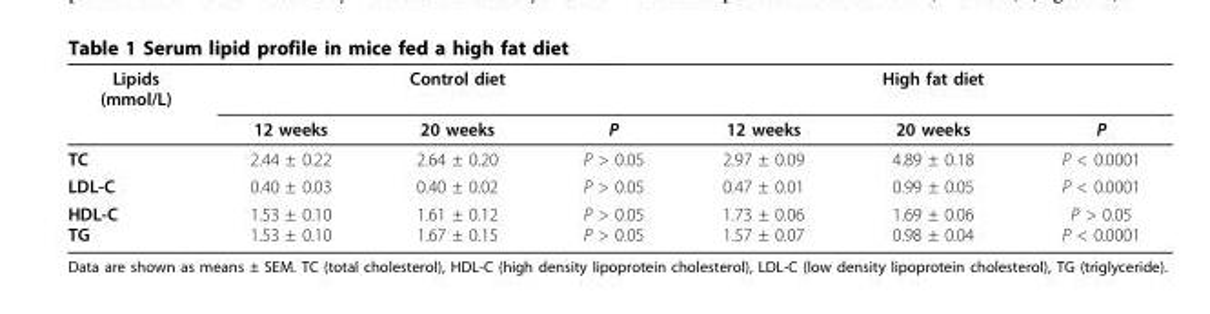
<table><thead><tr><td rowspan="2">Lipids (mmol/L)</td><td rowspan="2">12 weeks</td><td rowspan="2">Control diet 20 weeks</td><td rowspan="2">P</td><td rowspan="2">12 weeks</td><td rowspan="2">High fat diet 20 weeks</td><td rowspan="2">P</td></tr><tr></tr></thead><tbody><tr><td>TC</td><td>2.44 ± 0.22</td><td>2.64 ± 0.20</td><td>P &gt; 0.05</td><td>2.97 ± 0.09</td><td>4.89 ± 0.18</td><td>P &lt; 0.0001</td></tr><tr><td>LDL-C</td><td>0.40 ± 0.03</td><td>0.40 ± 0.02</td><td>P &gt; 0.05</td><td>0.47 ± 0.01</td><td>0.99 ± 0.05</td><td>P &lt; 0.0001</td></tr><tr><td>HDL-C TG</td><td>1.53 ± 0.10 1.53 ± 0.10</td><td>1.61 ± 0.12 1.67 ± 0.15</td><td>P &gt; 0.05 P &gt; 0.05</td><td>1.73 ± 0.06 1.57 ± 0.07</td><td>1.69 ± 0.06 0.98 ± 0.04</td><td>P &gt; 0.05 P &lt; 0.0001</td></tr></tbody></table>